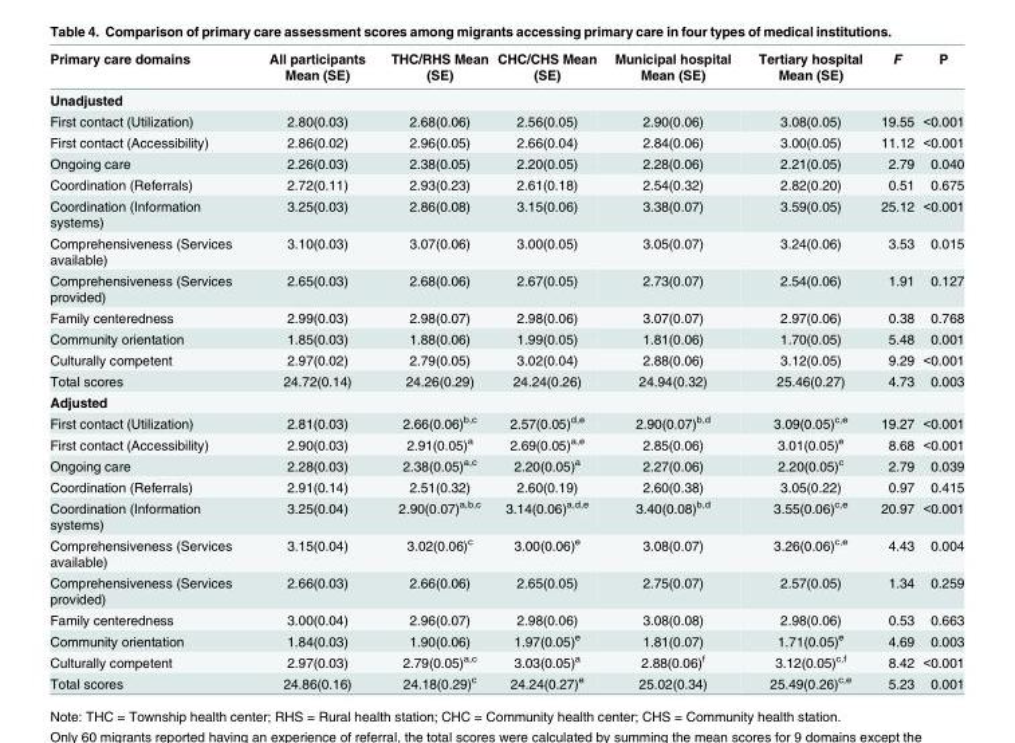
<table><thead><tr><td>Primary care domains</td><td>All participants Mean (SE)</td><td>THC/RHS Mean (SE)</td><td>CHC/CHS Mean (SE)</td><td>Municipal hospital Mean (SE)</td><td>Tertiary hospital Mean (SE)</td><td>F</td><td>P</td></tr></thead><tbody><tr><td colspan="8">Unadjusted</td></tr><tr><td>First contact (Utilization)</td><td>2.80(0.03)</td><td>2.68(0.06)</td><td>2.56(0.05)</td><td>2.90(0.06)</td><td>3.08(0.05)</td><td>19.55</td><td>&lt;0.001</td></tr><tr><td>First contact (Accessibility)</td><td>2.86(0.02)</td><td>2.96(0.05)</td><td>2.66(0.04)</td><td>2.84(0.06)</td><td>3.00(0.05)</td><td>11.12</td><td>&lt;0.001</td></tr><tr><td>Ongoing care</td><td>2.26(0.03)</td><td>2.38(0.05)</td><td>2.20(0.05)</td><td>2.28(0.06)</td><td>2.21(0.05)</td><td>2.79</td><td>0.040</td></tr><tr><td>Coordination (Referrals)</td><td>2.72(0.11)</td><td>2.93(0.23)</td><td>2.61(0.18)</td><td>2.54(0.32)</td><td>2.82(0.20)</td><td>0.51</td><td>0.675</td></tr><tr><td>Coordination (Information systems)</td><td>3.25(0.03)</td><td>2.86(0.08)</td><td>3.15(0.06)</td><td>3.38(0.07)</td><td>3.59(0.05)</td><td>25.12</td><td>&lt;0.001</td></tr><tr><td>Comprehensiveness (Services available)</td><td>3.10(0.03)</td><td>3.07(0.06)</td><td>3.00(0.05)</td><td>3.05(0.07)</td><td>3.24(0.06)</td><td>3.53</td><td>0.015</td></tr><tr><td>Comprehensiveness (Services provided)</td><td>2.65(0.03)</td><td>2.68(0.06)</td><td>2.67(0.05)</td><td>2.73(0.07)</td><td>2.54(0.06)</td><td>1.91</td><td>0.127</td></tr><tr><td>Family centeredness</td><td>2.99(0.03)</td><td>2.98(0.07)</td><td>2.98(0.06)</td><td>3.07(0.07)</td><td>2.97(0.06)</td><td>0.38</td><td>0.768</td></tr><tr><td>Community orientation</td><td>1.85(0.03)</td><td>1.88(0.06)</td><td>1.99(0.05)</td><td>1.81(0.06)</td><td>1.70(0.05)</td><td>5.48</td><td>0.001</td></tr><tr><td>Culturally competent</td><td>2.97(0.02)</td><td>2.79(0.05)</td><td>3.02(0.04)</td><td>2.88(0.06)</td><td>3.12(0.05)</td><td>9.29</td><td>&lt;0.001</td></tr><tr><td>Total scores</td><td>24.72(0.14)</td><td>24.26(0.29)</td><td>24.24(0.26)</td><td>24.94(0.32)</td><td>25.46(0.27)</td><td>4.73</td><td>0.003</td></tr><tr><td colspan="8">Adjusted</td></tr><tr><td>First contact (Utilization)</td><td>2.81(0.03)</td><td>2.66(0.06)<sup>b,c</sup></td><td>2.57(0.05)<sup>d,e</sup></td><td>2.90(0.07)<sup>b,d</sup></td><td>3.09(0.05)<sup>c,e</sup></td><td>19.27</td><td>&lt;0.001</td></tr><tr><td>First contact (Accessibility)</td><td>2.90(0.03)</td><td>2.91(0.05)<sup>a</sup></td><td>2.69(0.05)<sup>a,e</sup></td><td>2.85(0.06)</td><td>3.01(0.05)<sup>e</sup></td><td>8.68</td><td>&lt;0.001</td></tr><tr><td>Ongoing care</td><td>2.28(0.03)</td><td>2.38(0.05)<sup>a,c</sup></td><td>2.20(0.05)<sup>a</sup></td><td>2.27(0.06)</td><td>2.20(0.05)<sup>c</sup></td><td>2.79</td><td>0.039</td></tr><tr><td>Coordination (Referrals)</td><td>2.91(0.14)</td><td>2.51(0.32)</td><td>2.60(0.19)</td><td>2.60(0.38)</td><td>3.05(0.22)</td><td>0.97</td><td>0.415</td></tr><tr><td>Coordination (Information systems)</td><td>3.25(0.04)</td><td>2.90(0.07)<sup>a,b,c</sup></td><td>3.14(0.06)<sup>a,d,e</sup></td><td>3.40(0.08)<sup>b,d</sup></td><td>3.55(0.06)<sup>c,e</sup></td><td>20.97</td><td>&lt;0.001</td></tr><tr><td>Comprehensiveness (Services available)</td><td>3.15(0.04)</td><td>3.02(0.06)<sup>c</sup></td><td>3.00(0.06)<sup>e</sup></td><td>3.08(0.07)</td><td>3.26(0.06)<sup>c,e</sup></td><td>4.43</td><td>0.004</td></tr><tr><td>Comprehensiveness (Services provided)</td><td>2.66(0.03)</td><td>2.66(0.06)</td><td>2.65(0.05)</td><td>2.75(0.07)</td><td>2.57(0.05)</td><td>1.34</td><td>0.259</td></tr><tr><td>Family centeredness</td><td>3.00(0.04)</td><td>2.96(0.07)</td><td>2.98(0.06)</td><td>3.08(0.08)</td><td>2.98(0.06)</td><td>0.53</td><td>0.663</td></tr><tr><td>Community orientation</td><td>1.84(0.03)</td><td>1.90(0.06)</td><td>1.97(0.05)<sup>e</sup></td><td>1.81(0.07)</td><td>1.71(0.05)<sup>e</sup></td><td>4.69</td><td>0.003</td></tr><tr><td>Culturally competent</td><td>2.97(0.03)</td><td>2.79(0.05)<sup>a,c</sup></td><td>3.03(0.05)<sup>a</sup></td><td>2.88(0.06)<sup>f</sup></td><td>3.12(0.05)<sup>c,f</sup></td><td>8.42</td><td>&lt;0.001</td></tr><tr><td>Total scores</td><td>24.86(0.16)</td><td>24.18(0.29)<sup>c</sup></td><td>24.24(0.27)<sup>e</sup></td><td>25.02(0.34)</td><td>25.49(0.26)<sup>c,e</sup></td><td>5.23</td><td>0.001</td></tr></tbody></table>